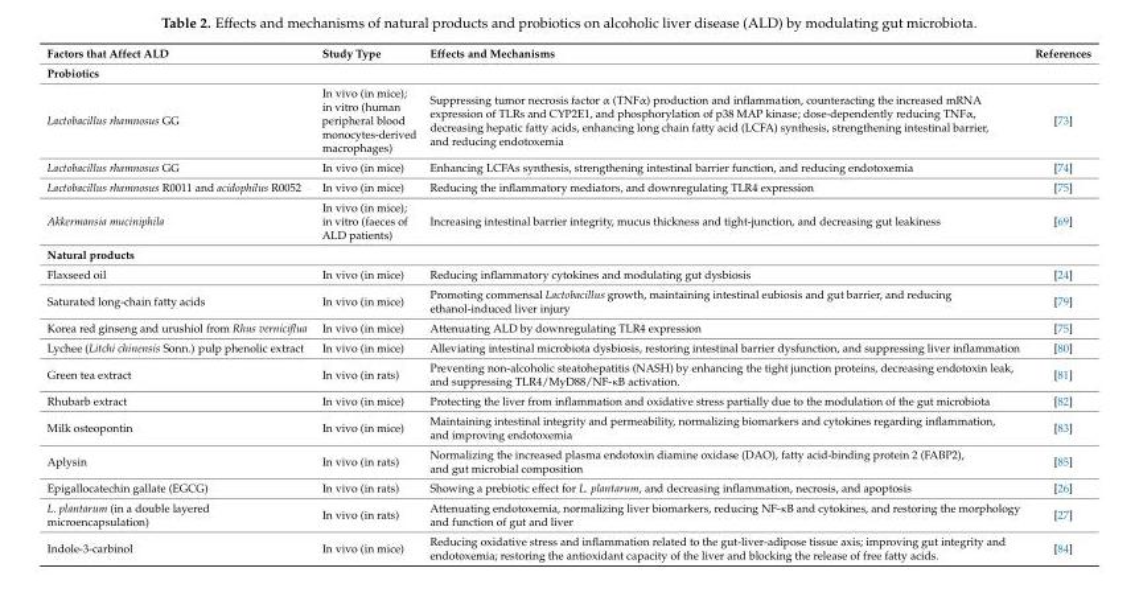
<table><thead><tr><td>Factors that Affect ALD</td><td>Study Type</td><td>Effects and Mechanisms</td><td>References</td></tr></thead><tbody><tr><td colspan="4">Probiotics</td></tr><tr><td>Lactobacillus rhamnosus GG</td><td>In vivo (in mice); in vitro (human peripheral blood monocytes-derived macrophages)</td><td>Suppressing tumor necrosis factor α (TNFα) production and inflammation, counteracting the increased mRNA expression of TLRs and CYP2E1, and phosphorylation of p38 MAP kinase; dose-dependently reducing TNFα, decreasing hepatic fatty acids, enhancing long chain fatty acid (LCFA) synthesis, strengthening intestinal barrier, and reducing endotoxemia</td><td>[73]</td></tr><tr><td>Lactobacillus rhamnosus GG</td><td>In vivo (in mice)</td><td>Enhancing LCFAs synthesis, strengthening intestinal barrier function, and reducing endotoxemia</td><td>[74]</td></tr><tr><td>Lactobacillus rhamnosus R0011 and acidophilus R0052</td><td>In vivo (in mice)</td><td>Reducing the inflammatory mediators, and downregulating TLR4 expression</td><td>[75]</td></tr><tr><td>Akkermansia muciniphila</td><td>In vivo (in mice); in vitro (faeces of ALD patients)</td><td>Increasing intestinal barrier integrity, mucus thickness and tight-junction, and decreasing gut leakiness</td><td>[69]</td></tr><tr><td colspan="4">Natural products</td></tr><tr><td>Flaxseed oil</td><td>In vivo (in mice)</td><td>Reducing inflammatory cytokines and modulating gut dysbiosis</td><td>[24]</td></tr><tr><td>Saturated long-chain fatty acids</td><td>In vivo (in mice)</td><td>Promoting commensal Lactobacillus growth, maintaining intestinal eubiosis and gut barrier, and reducing ethanol-induced liver injury</td><td>[79]</td></tr><tr><td>Korea red ginseng and urushiol from Rhus verniciflua</td><td>In vivo (in mice)</td><td>Attenuating ALD by downregulating TLR4 expression</td><td>[75]</td></tr><tr><td>Lychee (Litchi chinensis Sonn.) pulp phenolic extract</td><td>In vivo (in mice)</td><td>Alleviating intestinal microbiota dysbiosis, restoring intestinal barrier dysfunction, and suppressing liver inflammation</td><td>[80]</td></tr><tr><td>Green tea extract</td><td>In vivo (in rats)</td><td>Preventing non-alcoholic steatohepatitis (NASH) by enhancing the tight junction proteins, decreasing endotoxin leak, and suppressing TLR4/MyD88/NF-κB activation.</td><td>[81]</td></tr><tr><td>Rhubarb extract</td><td>In vivo (in mice)</td><td>Protecting the liver from inflammation and oxidative stress partially due to the modulation of the gut microbiota</td><td>[82]</td></tr><tr><td>Milk osteopontin</td><td>In vivo (in mice)</td><td>Maintaining intestinal integrity and permeability, normalizing biomarkers and cytokines regarding inflammation, and improving endotoxemia</td><td>[83]</td></tr><tr><td>Aplysin</td><td>In vivo (in rats)</td><td>Normalizing the increased plasma endotoxin diamine oxidase (DAO), fatty acid-binding protein 2 (FABP2), and gut microbial composition</td><td>[85]</td></tr><tr><td>Epigallocatechin gallate (EGCG)</td><td>In vivo (in rats)</td><td>Showing a prebiotic effect for L. plantarum, and decreasing inflammation, necrosis, and apoptosis</td><td>[26]</td></tr><tr><td>L. plantarum (in a double layered microencapsulation)</td><td>In vivo (in rats)</td><td>Attenuating endotoxemia, normalizing liver biomarkers, reducing NF-κB and cytokines, and restoring the morphology and function of gut and liver</td><td>[27]</td></tr><tr><td>Indole-3-carbinol</td><td>In vivo (in mice)</td><td>Reducing oxidative stress and inflammation related to the gut-liver-adipose tissue axis; improving gut integrity and endotoxemia; restoring the antioxidant capacity of the liver and blocking the release of free fatty acids.</td><td>[84]</td></tr></tbody></table>